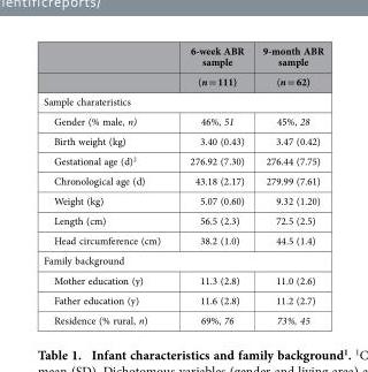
<table><thead><tr><td rowspan="2"></td><td rowspan="2">6-week ABR sample (n = 111)</td><td rowspan="2">9-month ABR sample (n = 62)</td></tr><tr></tr></thead><tbody><tr><td colspan="3">Sample charateristics</td></tr><tr><td>Gender (% male, n)</td><td>46%, 51</td><td>45%, 28</td></tr><tr><td>Birth weight (kg)</td><td>3.40 (0.43)</td><td>3.47 (0.42)</td></tr><tr><td>Gestational age (d)<sup>2</sup></td><td>276.92 (7.30)</td><td>276.44 (7.75)</td></tr><tr><td>Chronological age (d)</td><td>43.18 (2.17)</td><td>279.99 (7.61)</td></tr><tr><td>Weight (kg)</td><td>5.07 (0.60)</td><td>9.32 (1.20)</td></tr><tr><td>Length (cm)</td><td>56.5 (2.3)</td><td>72.5 (2.5)</td></tr><tr><td>Head circumference (cm)</td><td>38.2 (1.0)</td><td>44.5 (1.4)</td></tr><tr><td colspan="3">Family background</td></tr><tr><td>Mother education (y)</td><td>11.3 (2.8)</td><td>11.0 (2.6)</td></tr><tr><td>Father education (y)</td><td>11.6 (2.8)</td><td>11.2 (2.7)</td></tr><tr><td>Residence (% rural, n)</td><td>69%, 76</td><td>73%, 45</td></tr></tbody></table>